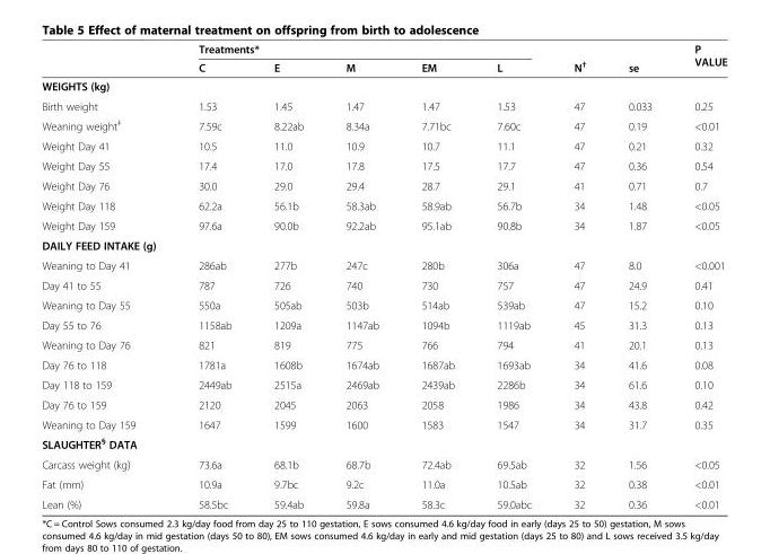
<table><thead><tr><td rowspan="2"></td><td colspan="5">Treatments*</td><td rowspan="2">N<sup>†</sup></td><td rowspan="2">se</td><td rowspan="2">P VALUE</td></tr><tr><td>C</td><td>E</td><td>M</td><td>EM</td><td>L</td></tr></thead><tbody><tr><td colspan="9">WEIGHTS (kg)</td></tr><tr><td>Birth weight</td><td>1.53</td><td>1.45</td><td>1.47</td><td>1.47</td><td>1.53</td><td>47</td><td>0.033</td><td>0.25</td></tr><tr><td>Weaning weight<sup>‡</sup></td><td>7.59c</td><td>8.22ab</td><td>8.34a</td><td>7.71bc</td><td>7.60c</td><td>47</td><td>0.19</td><td>&lt;0.01</td></tr><tr><td>Weight Day 41</td><td>10.5</td><td>11.0</td><td>10.9</td><td>10.7</td><td>11.1</td><td>47</td><td>0.21</td><td>0.32</td></tr><tr><td>Weight Day 55</td><td>17.4</td><td>17.0</td><td>17.8</td><td>17.5</td><td>17.7</td><td>47</td><td>0.36</td><td>0.54</td></tr><tr><td>Weight Day 76</td><td>30.0</td><td>29.0</td><td>29.4</td><td>28.7</td><td>29.1</td><td>41</td><td>0.71</td><td>0.7</td></tr><tr><td>Weight Day 118</td><td>62.2a</td><td>56.1b</td><td>58.3ab</td><td>58.9ab</td><td>56.7b</td><td>34</td><td>1.48</td><td>&lt;0.05</td></tr><tr><td>Weight Day 159</td><td>97.6a</td><td>90.0b</td><td>92.2ab</td><td>95.1ab</td><td>90.8b</td><td>34</td><td>1.87</td><td>&lt;0.05</td></tr><tr><td colspan="9">DAILY FEED INTAKE (g)</td></tr><tr><td>Weaning to Day 41</td><td>286ab</td><td>277b</td><td>247c</td><td>280b</td><td>306a</td><td>47</td><td>8.0</td><td>&lt;0.001</td></tr><tr><td>Day 41 to 55</td><td>787</td><td>726</td><td>740</td><td>730</td><td>757</td><td>47</td><td>24.9</td><td>0.41</td></tr><tr><td>Weaning to Day 55</td><td>550a</td><td>505ab</td><td>503b</td><td>514ab</td><td>539ab</td><td>47</td><td>15.2</td><td>0.10</td></tr><tr><td>Day 55 to 76</td><td>1158ab</td><td>1209a</td><td>1147ab</td><td>1094b</td><td>1119ab</td><td>45</td><td>31.3</td><td>0.13</td></tr><tr><td>Weaning to Day 76</td><td>821</td><td>819</td><td>775</td><td>766</td><td>794</td><td>41</td><td>20.1</td><td>0.13</td></tr><tr><td>Day 76 to 118</td><td>1781a</td><td>1608b</td><td>1674ab</td><td>1687ab</td><td>1693ab</td><td>34</td><td>41.6</td><td>0.08</td></tr><tr><td>Day 118 to 159</td><td>2449ab</td><td>2515a</td><td>2469ab</td><td>2439ab</td><td>2286b</td><td>34</td><td>61.6</td><td>0.10</td></tr><tr><td>Day 76 to 159</td><td>2120</td><td>2045</td><td>2063</td><td>2058</td><td>1986</td><td>34</td><td>43.8</td><td>0.42</td></tr><tr><td>Weaning to Day 159</td><td>1647</td><td>1599</td><td>1600</td><td>1583</td><td>1547</td><td>34</td><td>31.7</td><td>0.35</td></tr><tr><td colspan="9">SLAUGHTER<sup>§</sup> DATA</td></tr><tr><td>Carcass weight (kg)</td><td>73.6a</td><td>68.1b</td><td>68.7b</td><td>72.4ab</td><td>69.5ab</td><td>32</td><td>1.56</td><td>&lt;0.05</td></tr><tr><td>Fat (mm)</td><td>10.9a</td><td>9.7bc</td><td>9.2c</td><td>11.0a</td><td>10.5ab</td><td>32</td><td>0.38</td><td>&lt;0.01</td></tr><tr><td>Lean (%)</td><td>58.5bc</td><td>59.4ab</td><td>59.8a</td><td>58.3c</td><td>59.0abc</td><td>32</td><td>0.36</td><td>&lt;0.01</td></tr></tbody></table>